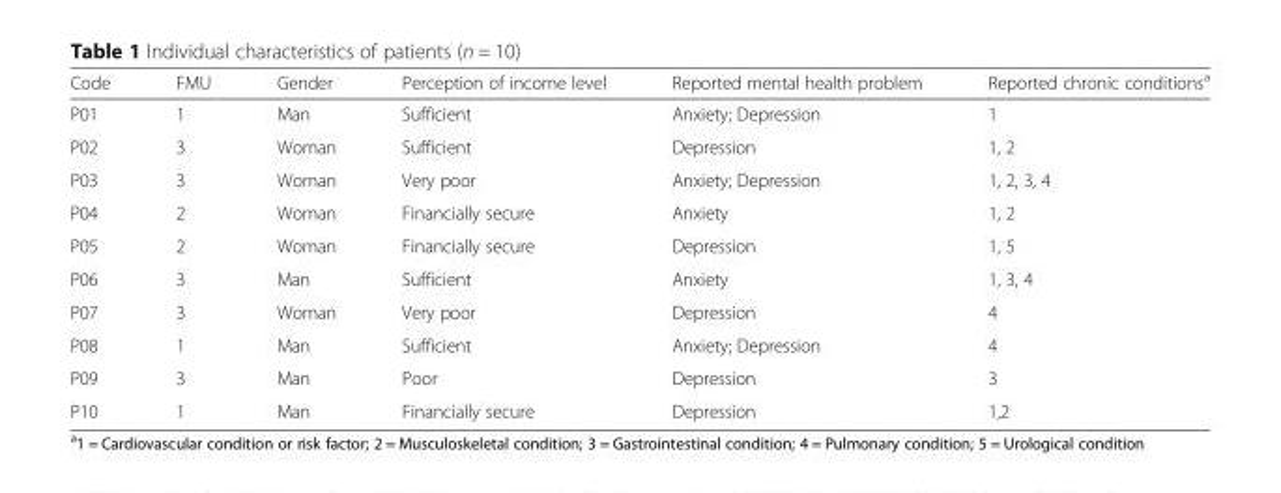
<table><thead><tr><td>Code</td><td>FMU</td><td>Gender</td><td>Perception of income level</td><td>Reported mental health problem</td><td>Reported chronic conditions<sup>a</sup></td></tr></thead><tbody><tr><td>P01</td><td>1</td><td>Man</td><td>Sufficient</td><td>Anxiety; Depression</td><td>1</td></tr><tr><td>P02</td><td>3</td><td>Woman</td><td>Sufficient</td><td>Depression</td><td>1, 2</td></tr><tr><td>P03</td><td>3</td><td>Woman</td><td>Very poor</td><td>Anxiety; Depression</td><td>1, 2, 3, 4</td></tr><tr><td>P04</td><td>2</td><td>Woman</td><td>Financially secure</td><td>Anxiety</td><td>1, 2</td></tr><tr><td>P05</td><td>2</td><td>Woman</td><td>Financially secure</td><td>Depression</td><td>1, 5</td></tr><tr><td>P06</td><td>3</td><td>Man</td><td>Sufficient</td><td>Anxiety</td><td>1, 3, 4</td></tr><tr><td>P07</td><td>3</td><td>Woman</td><td>Very poor</td><td>Depression</td><td>4</td></tr><tr><td>P08</td><td>1</td><td>Man</td><td>Sufficient</td><td>Anxiety; Depression</td><td>4</td></tr><tr><td>P09</td><td>3</td><td>Man</td><td>Poor</td><td>Depression</td><td>3</td></tr><tr><td>P10</td><td>1</td><td>Man</td><td>Financially secure</td><td>Depression</td><td>1,2</td></tr></tbody></table>